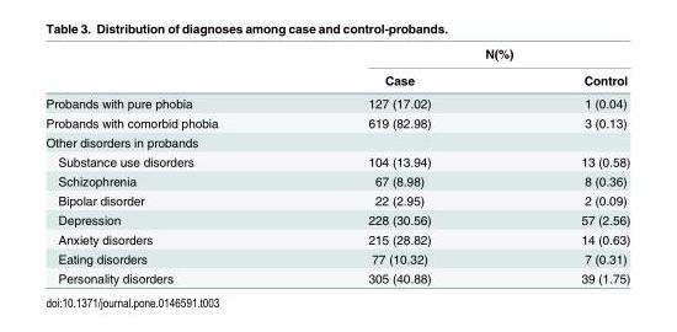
<table><thead><tr><td rowspan="2"></td><td colspan="2">N(%)</td></tr><tr><td>Case</td><td>Control</td></tr></thead><tbody><tr><td>Probands with pure phobia</td><td>127 (17.02)</td><td>1 (0.04)</td></tr><tr><td>Probands with comorbid phobia</td><td>619 (82.98)</td><td>3 (0.13)</td></tr><tr><td colspan="3">Other disorders in probands</td></tr><tr><td>Substance use disorders</td><td>104 (13.94)</td><td>13 (0.58)</td></tr><tr><td>Schizophrenia</td><td>67 (8.98)</td><td>8 (0.36)</td></tr><tr><td>Bipolar disorder</td><td>22 (2.95)</td><td>2 (0.09)</td></tr><tr><td>Depression</td><td>228 (30.56)</td><td>57 (2.56)</td></tr><tr><td>Anxiety disorders</td><td>215 (28.82)</td><td>14 (0.63)</td></tr><tr><td>Eating disorders</td><td>77 (10.32)</td><td>7 (0.31)</td></tr><tr><td>Personality disorders</td><td>305 (40.88)</td><td>39 (1.75)</td></tr></tbody></table>